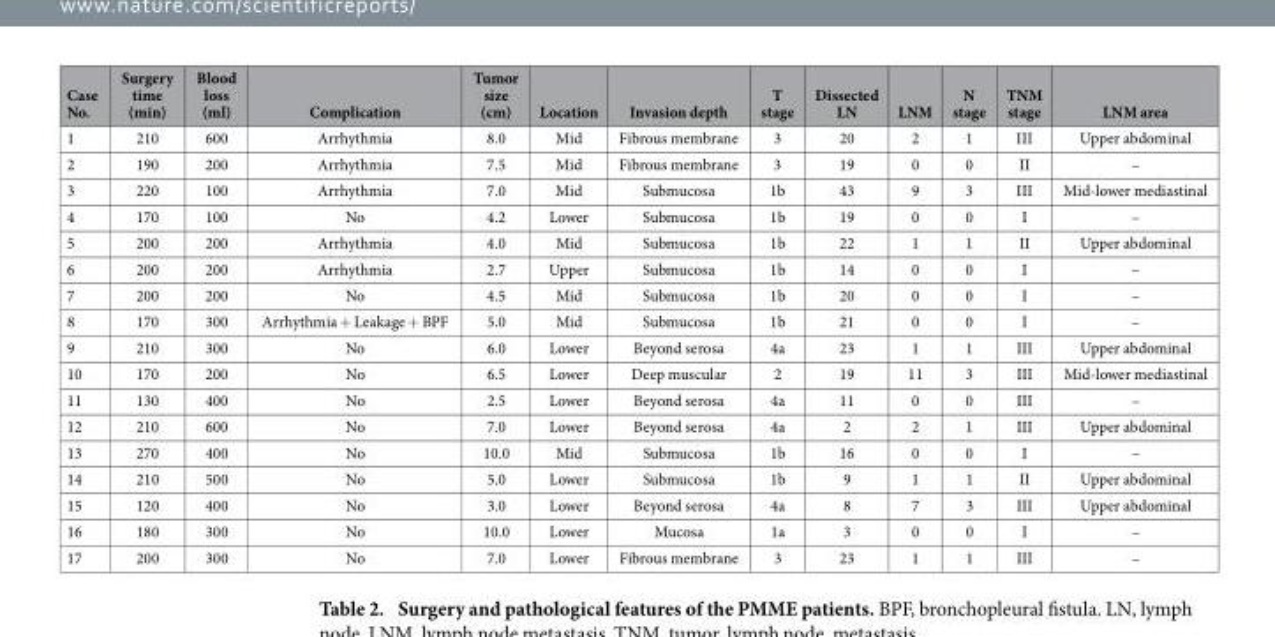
<table><thead><tr><td>Case No.</td><td>Surgery time (min)</td><td>Blood loss (ml)</td><td>Complication</td><td>Tumor size (cm)</td><td>Location</td><td>Invasion depth</td><td>T stage</td><td>Dissected LN</td><td>LNM</td><td>N stage</td><td>TNM stage</td><td>LNM area</td></tr></thead><tbody><tr><td>1</td><td>210</td><td>600</td><td>Arrhythmia</td><td>8.0</td><td>Mid</td><td>Fibrous membrane</td><td>3</td><td>20</td><td>2</td><td>1</td><td>III</td><td>Upper abdominal</td></tr><tr><td>2</td><td>190</td><td>200</td><td>Arrhythmia</td><td>7.5</td><td>Mid</td><td>Fibrous membrane</td><td>3</td><td>19</td><td>0</td><td>0</td><td>II</td><td>–</td></tr><tr><td>3</td><td>220</td><td>100</td><td>Arrhythmia</td><td>7.0</td><td>Mid</td><td>Submucosa</td><td>1b</td><td>43</td><td>9</td><td>3</td><td>III</td><td>Mid-lower mediastinal</td></tr><tr><td>4</td><td>170</td><td>100</td><td>No</td><td>4.2</td><td>Lower</td><td>Submucosa</td><td>1b</td><td>19</td><td>0</td><td>0</td><td>I</td><td>–</td></tr><tr><td>5</td><td>200</td><td>200</td><td>Arrhythmia</td><td>4.0</td><td>Mid</td><td>Submucosa</td><td>1b</td><td>22</td><td>1</td><td>1</td><td>II</td><td>Upper abdominal</td></tr><tr><td>6</td><td>200</td><td>200</td><td>Arrhythmia</td><td>2.7</td><td>Upper</td><td>Submucosa</td><td>1b</td><td>14</td><td>0</td><td>0</td><td>I</td><td>–</td></tr><tr><td>7</td><td>200</td><td>200</td><td>No</td><td>4.5</td><td>Mid</td><td>Submucosa</td><td>1b</td><td>20</td><td>0</td><td>0</td><td>I</td><td>–</td></tr><tr><td>8</td><td>170</td><td>300</td><td>Arrhythmia + Leakage + BPF</td><td>5.0</td><td>Mid</td><td>Submucosa</td><td>1b</td><td>21</td><td>0</td><td>0</td><td>I</td><td>–</td></tr><tr><td>9</td><td>210</td><td>300</td><td>No</td><td>6.0</td><td>Lower</td><td>Beyond serosa</td><td>4a</td><td>23</td><td>1</td><td>1</td><td>III</td><td>Upper abdominal</td></tr><tr><td>10</td><td>170</td><td>200</td><td>No</td><td>6.5</td><td>Lower</td><td>Deep muscular</td><td>2</td><td>19</td><td>11</td><td>3</td><td>III</td><td>Mid-lower mediastinal</td></tr><tr><td>11</td><td>130</td><td>400</td><td>No</td><td>2.5</td><td>Lower</td><td>Beyond serosa</td><td>4a</td><td>11</td><td>0</td><td>0</td><td>III</td><td>–</td></tr><tr><td>12</td><td>210</td><td>600</td><td>No</td><td>7.0</td><td>Lower</td><td>Beyond serosa</td><td>4a</td><td>2</td><td>2</td><td>1</td><td>III</td><td>Upper abdominal</td></tr><tr><td>13</td><td>270</td><td>400</td><td>No</td><td>10.0</td><td>Mid</td><td>Submucosa</td><td>1b</td><td>16</td><td>0</td><td>0</td><td>I</td><td>–</td></tr><tr><td>14</td><td>210</td><td>500</td><td>No</td><td>5.0</td><td>Lower</td><td>Submucosa</td><td>1b</td><td>9</td><td>1</td><td>1</td><td>II</td><td>Upper abdominal</td></tr><tr><td>15</td><td>120</td><td>400</td><td>No</td><td>3.0</td><td>Lower</td><td>Beyond serosa</td><td>4a</td><td>8</td><td>7</td><td>3</td><td>III</td><td>Upper abdominal</td></tr><tr><td>16</td><td>180</td><td>300</td><td>No</td><td>10.0</td><td>Lower</td><td>Mucosa</td><td>1a</td><td>3</td><td>0</td><td>0</td><td>I</td><td>–</td></tr><tr><td>17</td><td>200</td><td>300</td><td>No</td><td>7.0</td><td>Lower</td><td>Fibrous membrane</td><td>3</td><td>23</td><td>1</td><td>1</td><td>III</td><td>–</td></tr></tbody></table>